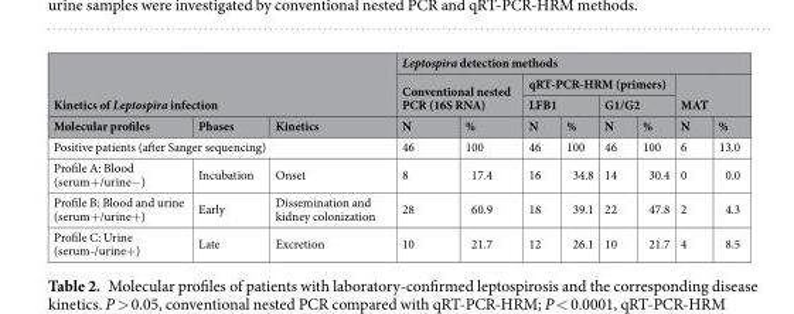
<table><thead><tr><td rowspan="3" colspan="3">Kinetics of Leptospira infection</td><td colspan="8">Leptospira detection methods</td></tr><tr><td rowspan="2" colspan="2">Conventional nested PCR (16S RNA)</td><td colspan="4">qRT-PCR-HRM (primers)</td><td rowspan="2" colspan="2">MAT</td></tr><tr><td colspan="2">LFB1</td><td colspan="2">G1/G2</td></tr><tr><td>Molecular profiles</td><td>Phases</td><td>Kinetics</td><td>N</td><td>%</td><td>N</td><td>%</td><td>N</td><td>%</td><td>N</td><td>%</td></tr></thead><tbody><tr><td colspan="3">Positive patients (after Sanger sequencing)</td><td>46</td><td>100</td><td>46</td><td>100</td><td>46</td><td>100</td><td>6</td><td>13.0</td></tr><tr><td>Profile A: Blood (serum+/urine−)</td><td>Incubation</td><td>Onset</td><td>8</td><td>17.4</td><td>16</td><td>34.8</td><td>14</td><td>30.4</td><td>0</td><td>0.0</td></tr><tr><td>Profile B: Blood and urine (serum+/urine+)</td><td>Early</td><td>Dissemination and kidney colonization</td><td>28</td><td>60.9</td><td>18</td><td>39.1</td><td>22</td><td>47.8</td><td>2</td><td>4.3</td></tr><tr><td>Profile C: Urine (serum-/urine+)</td><td>Late</td><td>Excretion</td><td>10</td><td>21.7</td><td>12</td><td>26.1</td><td>10</td><td>21.7</td><td>4</td><td>8.5</td></tr></tbody></table>